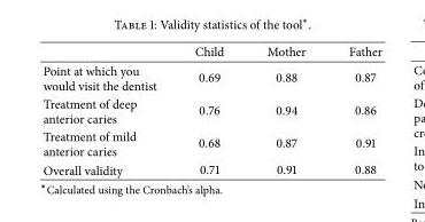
<table><thead><tr><td></td><td>Child</td><td>Mother</td><td>Father</td></tr></thead><tbody><tr><td>Point at which you would visit the dentist</td><td>0.69</td><td>0.88</td><td>0.87</td></tr><tr><td>Treatment of deep anterior caries</td><td>0.76</td><td>0.94</td><td>0.86</td></tr><tr><td>Treatment of mild anterior caries</td><td>0.68</td><td>0.87</td><td>0.91</td></tr><tr><td>Overall validity</td><td>0.71</td><td>0.91</td><td>0.88</td></tr></tbody></table>